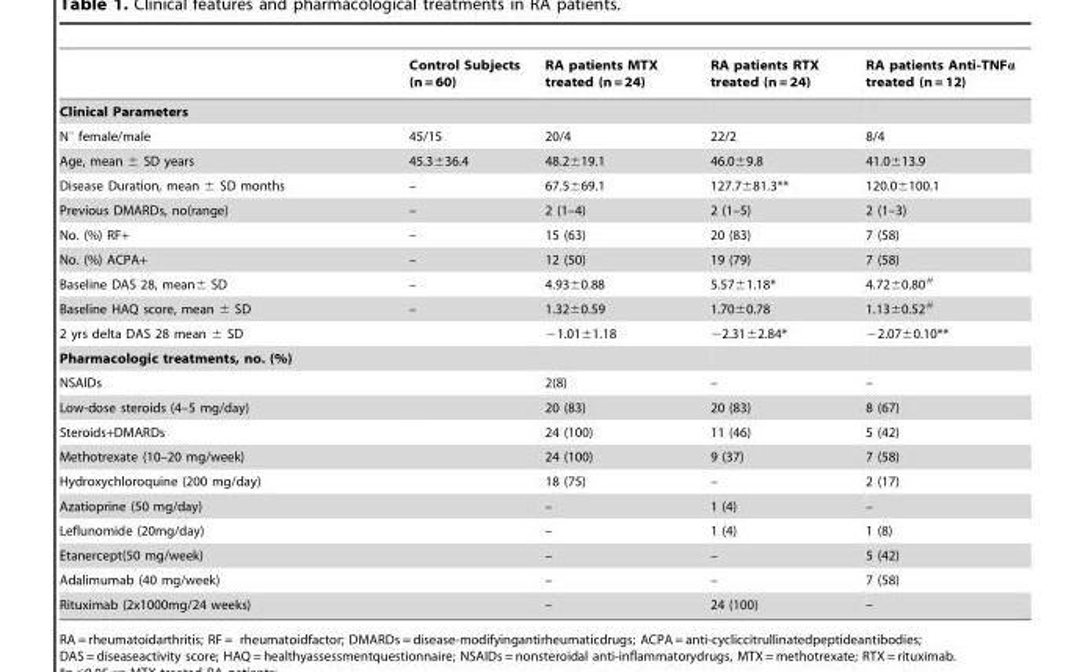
<table><thead><tr><td></td><td>Control Subjects (n = 60)</td><td>RA patients MTX treated (n = 24)</td><td>RA patients RTX treated (n = 24)</td><td>RA patients Anti-TNFα treated (n = 12)</td></tr></thead><tbody><tr><td colspan="5">Clinical Parameters</td></tr><tr><td>N° female/male</td><td>45/15</td><td>20/4</td><td>22/2</td><td>8/4</td></tr><tr><td>Age, mean ± SD years</td><td>45.3±36.4</td><td>48.2±19.1</td><td>46.0±9.8</td><td>41.0±13.9</td></tr><tr><td>Disease Duration, mean ± SD months</td><td>–</td><td>67.5±69.1</td><td>127.7±81.3**</td><td>120.0±100.1</td></tr><tr><td>Previous DMARDs, no(range)</td><td>–</td><td>2 (1–4)</td><td>2 (1–5)</td><td>2 (1–3)</td></tr><tr><td>No. (%) RF+</td><td>–</td><td>15 (63)</td><td>20 (83)</td><td>7 (58)</td></tr><tr><td>No. (%) ACPA+</td><td>–</td><td>12 (50)</td><td>19 (79)</td><td>7 (58)</td></tr><tr><td>Baseline DAS 28, mean± SD</td><td>–</td><td>4.93±0.88</td><td>5.57±1.18*</td><td>4.72±0.80#</td></tr><tr><td>Baseline HAQ score, mean ± SD</td><td>–</td><td>1.32±0.59</td><td>1.70±0.78</td><td>1.13±0.52#</td></tr><tr><td>2 yrs delta DAS 28 mean ± SD</td><td></td><td>−1.01±1.18</td><td>−2.31±2.84*</td><td>−2.07±0.10**</td></tr><tr><td colspan="5">Pharmacologic treatments, no. (%)</td></tr><tr><td>NSAIDs</td><td></td><td>2(8)</td><td>–</td><td>–</td></tr><tr><td>Low-dose steroids (4–5 mg/day)</td><td></td><td>20 (83)</td><td>20 (83)</td><td>8 (67)</td></tr><tr><td>Steroids+DMARDs</td><td></td><td>24 (100)</td><td>11 (46)</td><td>5 (42)</td></tr><tr><td>Methotrexate (10–20 mg/week)</td><td></td><td>24 (100)</td><td>9 (37)</td><td>7 (58)</td></tr><tr><td>Hydroxychloroquine (200 mg/day)</td><td></td><td>18 (75)</td><td>–</td><td>2 (17)</td></tr><tr><td>Azatioprine (50 mg/day)</td><td></td><td>–</td><td>1 (4)</td><td>–</td></tr><tr><td>Leflunomide (20mg/day)</td><td></td><td>–</td><td>1 (4)</td><td>1 (8)</td></tr><tr><td>Etanercept(50 mg/week)</td><td></td><td>–</td><td>–</td><td>5 (42)</td></tr><tr><td>Adalimumab (40 mg/week)</td><td></td><td>–</td><td>–</td><td>7 (58)</td></tr><tr><td>Rituximab (2x1000mg/24 weeks)</td><td></td><td>–</td><td>24 (100)</td><td>–</td></tr></tbody></table>